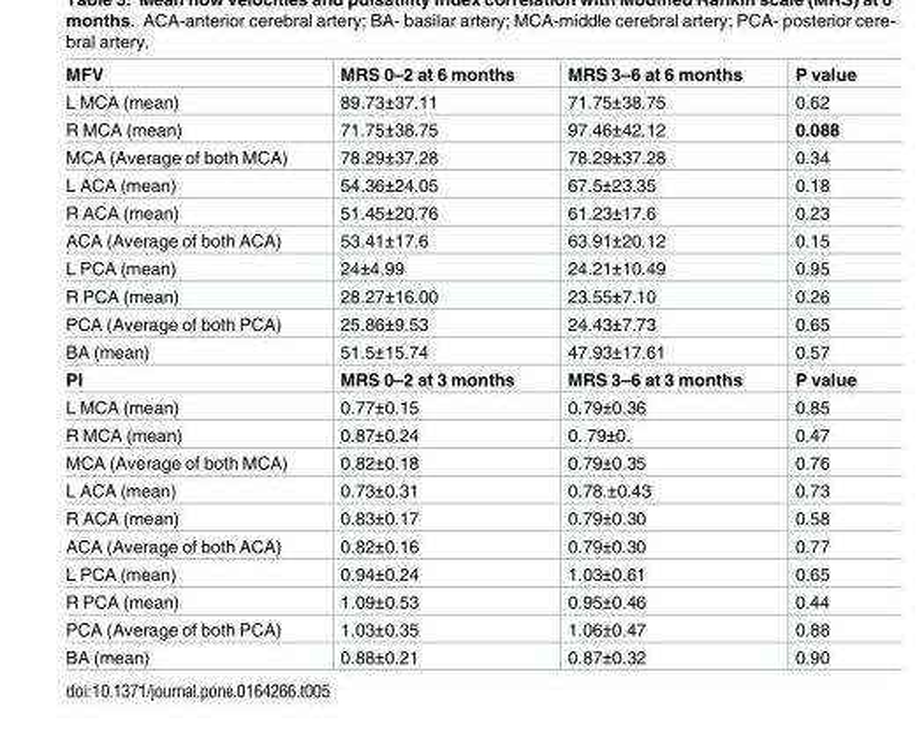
<table><tbody><tr><td>MFV</td><td>MRS 0–2 at 6 months</td><td>MRS 3–6 at 6 months</td><td>P value</td></tr><tr><td>L MCA (mean)</td><td>89.73±37.11</td><td>71.75±38.75</td><td>0.62</td></tr><tr><td>R MCA (mean)</td><td>71.75±38.75</td><td>97.46±42.12</td><td>0.088</td></tr><tr><td>MCA (Average of both MCA)</td><td>78.29±37.28</td><td>78.29±37.28</td><td>0.34</td></tr><tr><td>L ACA (mean)</td><td>54.36±24.05</td><td>67.5±23.35</td><td>0.18</td></tr><tr><td>R ACA (mean)</td><td>51.45±20.76</td><td>61.23±17.6</td><td>0.23</td></tr><tr><td>ACA (Average of both ACA)</td><td>53.41±17.6</td><td>63.91±20.12</td><td>0.15</td></tr><tr><td>L PCA (mean)</td><td>24±4.99</td><td>24.21±10.49</td><td>0.95</td></tr><tr><td>R PCA (mean)</td><td>28.27±16.00</td><td>23.55±7.10</td><td>0.26</td></tr><tr><td>PCA (Average of both PCA)</td><td>25.86±9.53</td><td>24.43±7.73</td><td>0.65</td></tr><tr><td>BA (mean)</td><td>51.5±15.74</td><td>47.93±17.61</td><td>0.57</td></tr><tr><td>PI</td><td>MRS 0–2 at 3 months</td><td>MRS 3–6 at 3 months</td><td>P value</td></tr><tr><td>L MCA (mean)</td><td>0.77±0.15</td><td>0.79±0.36</td><td>0.85</td></tr><tr><td>R MCA (mean)</td><td>0.87±0.24</td><td>0. 79±0.</td><td>0.47</td></tr><tr><td>MCA (Average of both MCA)</td><td>0.82±0.18</td><td>0.79±0.35</td><td>0.76</td></tr><tr><td>L ACA (mean)</td><td>0.73±0.31</td><td>0.78.±0.43</td><td>0.73</td></tr><tr><td>R ACA (mean)</td><td>0.83±0.17</td><td>0.79±0.30</td><td>0.58</td></tr><tr><td>ACA (Average of both ACA)</td><td>0.82±0.16</td><td>0.79±0.30</td><td>0.77</td></tr><tr><td>L PCA (mean)</td><td>0.94±0.24</td><td>1.03±0.61</td><td>0.65</td></tr><tr><td>R PCA (mean)</td><td>1.09±0.53</td><td>0.95±0.46</td><td>0.44</td></tr><tr><td>PCA (Average of both PCA)</td><td>1.03±0.35</td><td>1.06±0.47</td><td>0.88</td></tr><tr><td>BA (mean)</td><td>0.88±0.21</td><td>0.87±0.32</td><td>0.90</td></tr></tbody></table>